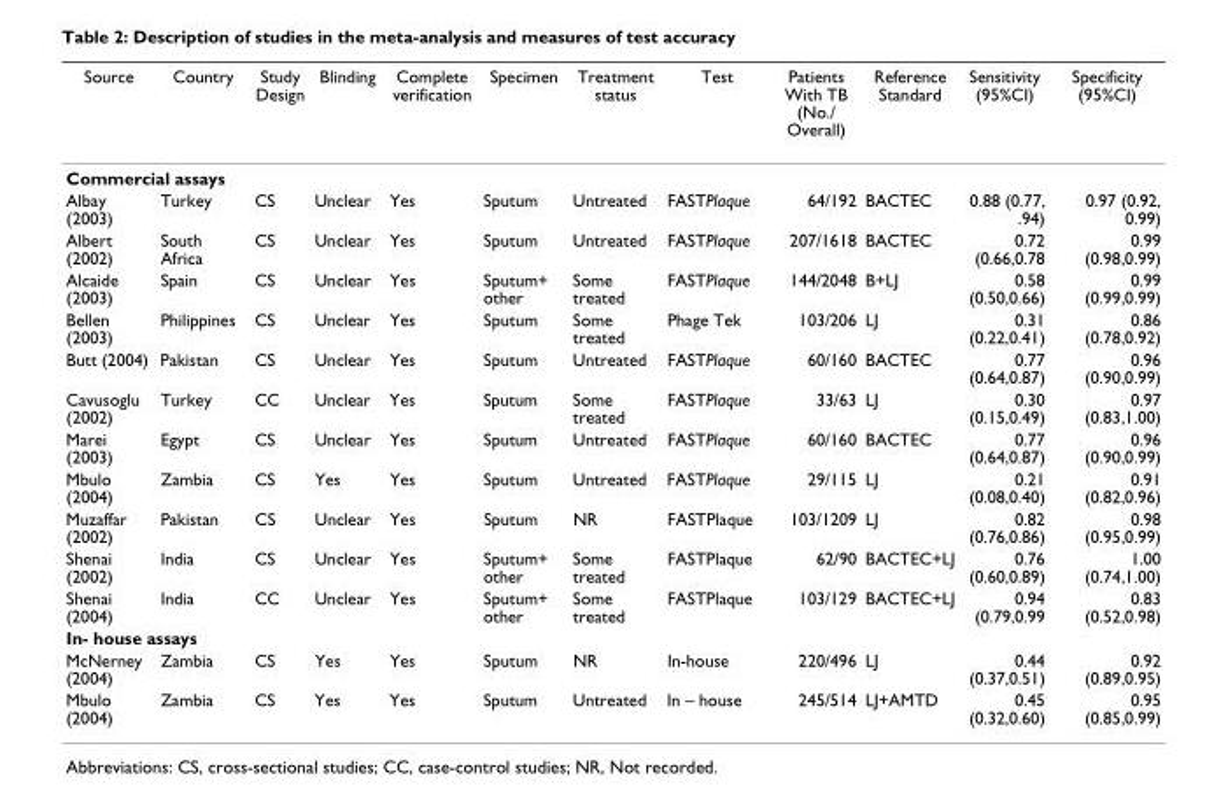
<table><thead><tr><td>Source</td><td>Country</td><td>Study Design</td><td>Blinding</td><td>Complete verification</td><td>Specimen</td><td>Treatment status</td><td>Test</td><td>Patients With TB (No./ Overall)</td><td>Reference Standard</td><td>Sensitivity (95%CI)</td><td>Specificity (95%CI)</td></tr></thead><tbody><tr><td colspan="12">Commercial assays</td></tr><tr><td>Albay (2003)</td><td>Turkey</td><td>CS</td><td>Unclear</td><td>Yes</td><td>Sputum</td><td>Untreated</td><td>FASTPlaque</td><td>64/192</td><td>BACTEC</td><td>0.88 (0.77, .94)</td><td>0.97 (0.92, 0.99)</td></tr><tr><td>Albert (2002)</td><td>South Africa</td><td>CS</td><td>Unclear</td><td>Yes</td><td>Sputum</td><td>Untreated</td><td>FASTPlaque</td><td>207/1618</td><td>BACTEC</td><td>0.72 (0.66,0.78</td><td>0.99 (0.98,0.99)</td></tr><tr><td>Alcaide (2003)</td><td>Spain</td><td>CS</td><td>Unclear</td><td>Yes</td><td>Sputum+ other</td><td>Some treated</td><td>FASTPlaque</td><td>144/2048</td><td>B+LJ</td><td>0.58 (0.50,0.66)</td><td>0.99 (0.99,0.99)</td></tr><tr><td>Bellen (2003)</td><td>Philippines</td><td>CS</td><td>Unclear</td><td>Yes</td><td>Sputum</td><td>Some treated</td><td>Phage Tek</td><td>103/206</td><td>LJ</td><td>0.31 (0.22,0.41)</td><td>0.86 (0.78,0.92)</td></tr><tr><td>Butt (2004)</td><td>Pakistan</td><td>CS</td><td>Unclear</td><td>Yes</td><td>Sputum</td><td>Untreated</td><td>FASTPlaque</td><td>60/160</td><td>BACTEC</td><td>0.77 (0.64,0.87)</td><td>0.96 (0.90,0.99)</td></tr><tr><td>Cavusoglu (2002)</td><td>Turkey</td><td>CC</td><td>Unclear</td><td>Yes</td><td>Sputum</td><td>Some treated</td><td>FASTPlaque</td><td>33/63</td><td>LJ</td><td>0.30 (0.15,0.49)</td><td>0.97 (0.83,1.00)</td></tr><tr><td>Marei (2003)</td><td>Egypt</td><td>CS</td><td>Unclear</td><td>Yes</td><td>Sputum</td><td>Untreated</td><td>FASTPlaque</td><td>60/160</td><td>BACTEC</td><td>0.77 (0.64,0.87)</td><td>0.96 (0.90,0.99)</td></tr><tr><td>Mbulo (2004)</td><td>Zambia</td><td>CS</td><td>Yes</td><td>Yes</td><td>Sputum</td><td>Untreated</td><td>FASTPlaque</td><td>29/115</td><td>LJ</td><td>0.21 (0.08,0.40)</td><td>0.91 (0.82,0.96)</td></tr><tr><td>Muzaffar (2002)</td><td>Pakistan</td><td>CS</td><td>Unclear</td><td>Yes</td><td>Sputum</td><td>NR</td><td>FASTPlaque</td><td>103/1209</td><td>LJ</td><td>0.82 (0.76,0.86)</td><td>0.98 (0.95,0.99)</td></tr><tr><td>Shenai (2002)</td><td>India</td><td>CS</td><td>Unclear</td><td>Yes</td><td>Sputum+ other</td><td>Some treated</td><td>FASTPlaque</td><td>62/90</td><td>BACTEC+LJ</td><td>0.76 (0.60,0.89)</td><td>1.00 (0.74,1.00)</td></tr><tr><td>Shenai (2004)</td><td>India</td><td>CC</td><td>Unclear</td><td>Yes</td><td>Sputum+ other</td><td>Some treated</td><td>FASTPlaque</td><td>103/129</td><td>BACTEC+LJ</td><td>0.94 (0.79,0.99</td><td>0.83 (0.52,0.98)</td></tr><tr><td colspan="12">In- house assays</td></tr><tr><td>McNerney (2004)</td><td>Zambia</td><td>CS</td><td>Yes</td><td>Yes</td><td>Sputum</td><td>NR</td><td>In-house</td><td>220/496</td><td>LJ</td><td>0.44 (0.37,0.51)</td><td>0.92 (0.89,0.95)</td></tr><tr><td>Mbulo (2004)</td><td>Zambia</td><td>CS</td><td>Yes</td><td>Yes</td><td>Sputum</td><td>Untreated</td><td>In – house</td><td>245/514</td><td>LJ+AMTD</td><td>0.45 (0.32,0.60)</td><td>0.95 (0.85,0.99)</td></tr></tbody></table>